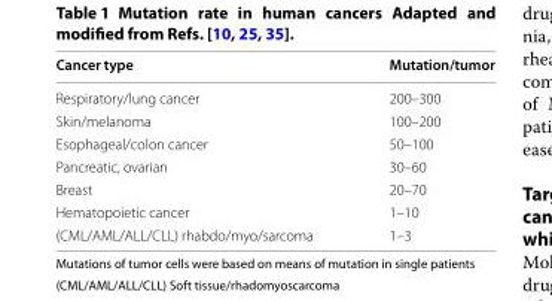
<table><thead><tr><td>Cancer type</td><td>Mutation/tumor</td></tr></thead><tbody><tr><td>Respiratory/lung cancer</td><td>200–300</td></tr><tr><td>Skin/melanoma</td><td>100–200</td></tr><tr><td>Esophageal/colon cancer</td><td>50–100</td></tr><tr><td>Pancreatic, ovarian</td><td>30–60</td></tr><tr><td>Breast</td><td>20–70</td></tr><tr><td>Hematopoietic cancer</td><td>1–10</td></tr><tr><td>(CML/AML/ALL/CLL) rhabdo/myo/sarcoma</td><td>1–3</td></tr></tbody></table>